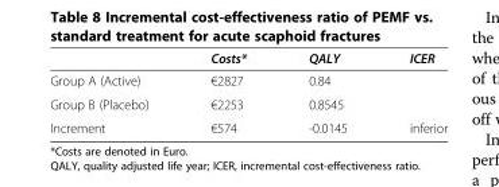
<table><thead><tr><td></td><td>Costs*</td><td>QALY</td><td>ICER</td></tr></thead><tbody><tr><td>Group A (Active)</td><td>€2827</td><td>0.84</td><td></td></tr><tr><td>Group B (Placebo)</td><td>€2253</td><td>0.8545</td><td></td></tr><tr><td>Increment</td><td>€574</td><td>-0.0145</td><td>inferior</td></tr></tbody></table>